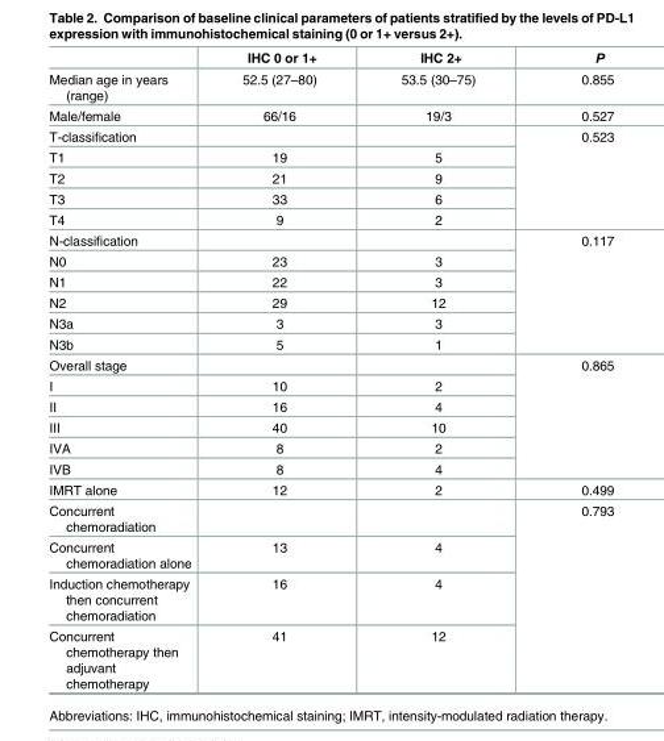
<table><thead><tr><td></td><td>IHC 0 or 1+</td><td>IHC 2+</td><td>P</td></tr></thead><tbody><tr><td>Median age in years (range)</td><td>52.5 (27–80)</td><td>53.5 (30–75)</td><td>0.855</td></tr><tr><td>Male/female</td><td>66/16</td><td>19/3</td><td>0.527</td></tr><tr><td colspan="3">T-classification</td><td rowspan="5">0.523</td></tr><tr><td>T1</td><td>19</td><td>5</td></tr><tr><td>T2</td><td>21</td><td>9</td></tr><tr><td>T3</td><td>33</td><td>6</td></tr><tr><td>T4</td><td>9</td><td>2</td></tr><tr><td colspan="3">N-classification</td><td rowspan="6">0.117</td></tr><tr><td>N0</td><td>23</td><td>3</td></tr><tr><td>N1</td><td>22</td><td>3</td></tr><tr><td>N2</td><td>29</td><td>12</td></tr><tr><td>N3a</td><td>3</td><td>3</td></tr><tr><td>N3b</td><td>5</td><td>1</td></tr><tr><td colspan="3">Overall stage</td><td rowspan="6">0.865</td></tr><tr><td>I</td><td>10</td><td>2</td></tr><tr><td>II</td><td>16</td><td>4</td></tr><tr><td>III</td><td>40</td><td>10</td></tr><tr><td>IVA</td><td>8</td><td>2</td></tr><tr><td>IVB</td><td>8</td><td>4</td></tr><tr><td>IMRT alone</td><td>12</td><td>2</td><td>0.499</td></tr><tr><td colspan="3">Concurrent chemoradiation</td><td rowspan="4">0.793</td></tr><tr><td>Concurrent chemoradiation alone</td><td>13</td><td>4</td></tr><tr><td>Induction chemotherapy then concurrent chemoradiation</td><td>16</td><td>4</td></tr><tr><td>Concurrent chemotherapy then adjuvant chemotherapy</td><td>41</td><td>12</td></tr></tbody></table>